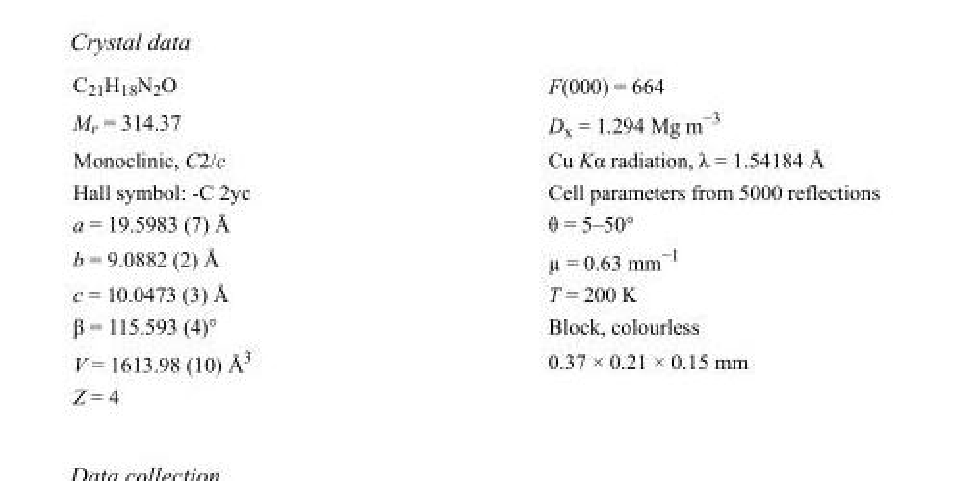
<table><tbody><tr><td>C<sub>21</sub>H<sub>18</sub>N<sub>2</sub>O</td><td>F(000) = 664</td></tr><tr><td>M<sub>r</sub> = 314.37</td><td>D<sub>x</sub> = 1.294 Mg m<sup>−3</sup></td></tr><tr><td>Monoclinic, C2/c</td><td>Cu Kα radiation, λ = 1.54184 Å</td></tr><tr><td>Hall symbol: -C 2yc</td><td>Cell parameters from 5000 reflections</td></tr><tr><td>a = 19.5983 (7) Å</td><td>θ = 5–50°</td></tr><tr><td>b = 9.0882 (2) Å</td><td>µ = 0.63 mm<sup>−1</sup></td></tr><tr><td>c = 10.0473 (3) Å</td><td>T = 200 K</td></tr><tr><td>β = 115.593 (4)°</td><td>Block, colourless</td></tr><tr><td>V = 1613.98 (10) Å<sup>3</sup></td><td>0.37 × 0.21 × 0.15 mm</td></tr><tr><td>Z = 4</td><td></td></tr></tbody></table>